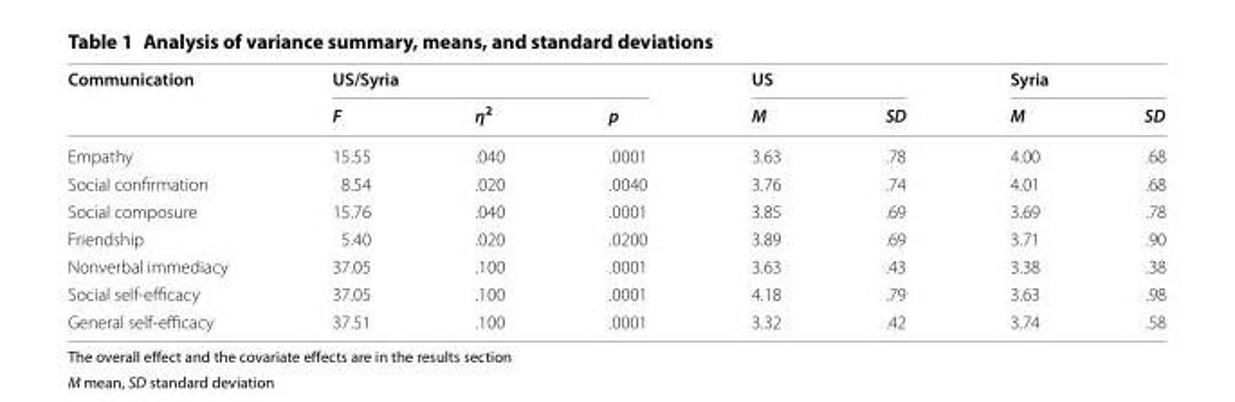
<table><thead><tr><td rowspan="2">Communication</td><td colspan="3">US/Syria</td><td colspan="2">US</td><td colspan="2">Syria</td></tr><tr><td>F</td><td>η<sup>2</sup></td><td>p</td><td>M</td><td>SD</td><td>M</td><td>SD</td></tr></thead><tbody><tr><td>Empathy</td><td>15.55</td><td>.040</td><td>.0001</td><td>3.63</td><td>.78</td><td>4.00</td><td>.68</td></tr><tr><td>Social confirmation</td><td>8.54</td><td>.020</td><td>.0040</td><td>3.76</td><td>.74</td><td>4.01</td><td>.68</td></tr><tr><td>Social composure</td><td>15.76</td><td>.040</td><td>.0001</td><td>3.85</td><td>.69</td><td>3.69</td><td>.78</td></tr><tr><td>Friendship</td><td>5.40</td><td>.020</td><td>.0200</td><td>3.89</td><td>.69</td><td>3.71</td><td>.90</td></tr><tr><td>Nonverbal immediacy</td><td>37.05</td><td>.100</td><td>.0001</td><td>3.63</td><td>.43</td><td>3.38</td><td>.38</td></tr><tr><td>Social self-efficacy</td><td>37.05</td><td>.100</td><td>.0001</td><td>4.18</td><td>.79</td><td>3.63</td><td>.98</td></tr><tr><td>General self-efficacy</td><td>37.51</td><td>.100</td><td>.0001</td><td>3.32</td><td>.42</td><td>3.74</td><td>.58</td></tr></tbody></table>